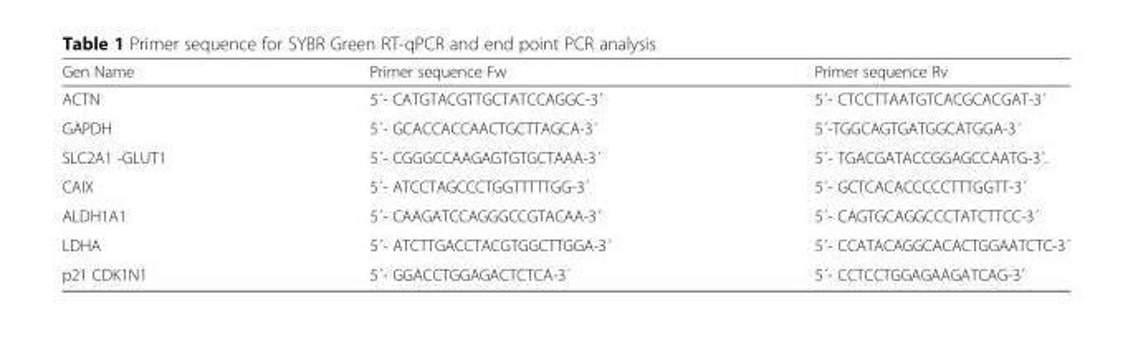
<table><thead><tr><td>Gen Name</td><td>Primer sequence Fw</td><td>Primer sequence Rv</td></tr></thead><tbody><tr><td>ACTN</td><td>5´- CATGTACGTTGCTATCCAGGC-3´</td><td>5´- CTCCTTAATGTCACGCACGAT-3´</td></tr><tr><td>GAPDH</td><td>5´- GCACCACCAACTGCTTAGCA-3´</td><td>5´-TGGCAGTGATGGCATGGA-3´</td></tr><tr><td>SLC2A1 -GLUT1</td><td>5´- CGGGCCAAGAGTGTGCTAAA-3´</td><td>5´- TGACGATACCGGAGCCAATG-3´.</td></tr><tr><td>CAIX</td><td>5´- ATCCTAGCCCTGGTTTTTGG-3´</td><td>5´- GCTCACACCCCCTTTGGTT-3´</td></tr><tr><td>ALDH1A1</td><td>5´- CAAGATCCAGGGCCGTACAA-3´</td><td>5´- CAGTGCAGGCCCTATCTTCC-3´</td></tr><tr><td>LDHA</td><td>5´- ATCTTGACCTACGTGGCTTGGA-3´</td><td>5´- CCATACAGGCACACTGGAATCTC-3´</td></tr><tr><td>p21 CDK1N1</td><td>5´- GGACCTGGAGACTCTCA-3´</td><td>5´- CCTCCTGGAGAAGATCAG-3´</td></tr></tbody></table>